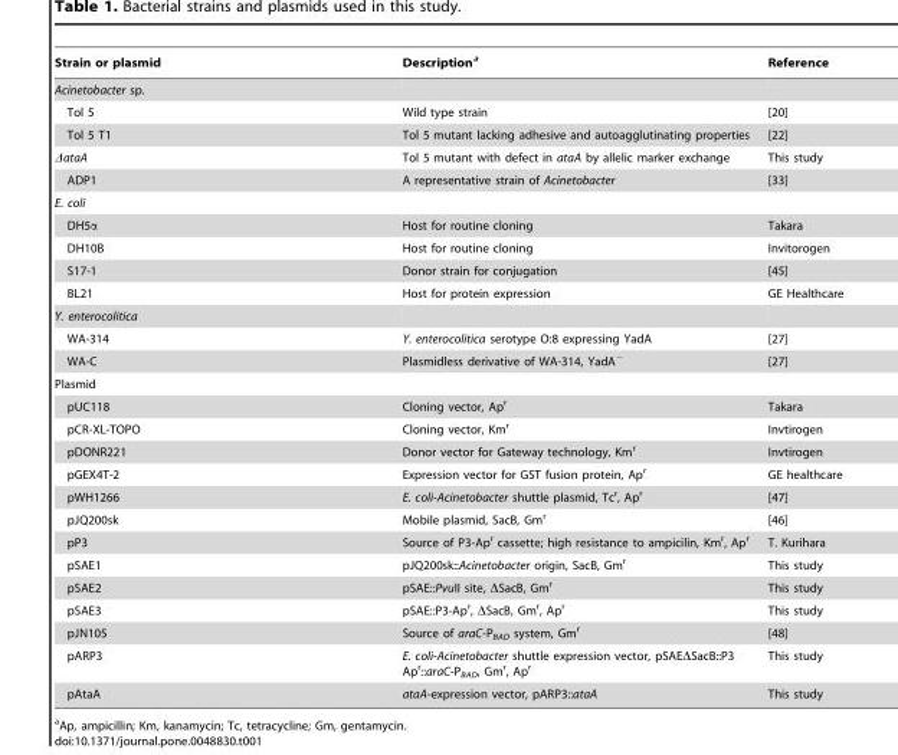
<table><thead><tr><td>Strain or plasmid</td><td>Description<sup>a</sup></td><td>Reference</td></tr></thead><tbody><tr><td colspan="3">Acinetobacter sp.</td></tr><tr><td>Tol 5</td><td>Wild type strain</td><td>[20]</td></tr><tr><td>Tol 5 T1</td><td>Tol 5 mutant lacking adhesive and autoagglutinating properties</td><td>[22]</td></tr><tr><td>ΔataA</td><td>Tol 5 mutant with defect in ataA by allelic marker exchange</td><td>This study</td></tr><tr><td>ADP1</td><td>A representative strain of Acinetobacter</td><td>[33]</td></tr><tr><td colspan="3">E. coli</td></tr><tr><td>DH5α</td><td>Host for routine cloning</td><td>Takara</td></tr><tr><td>DH10B</td><td>Host for routine cloning</td><td>Invitorogen</td></tr><tr><td>S17-1</td><td>Donor strain for conjugation</td><td>[45]</td></tr><tr><td>BL21</td><td>Host for protein expression</td><td>GE Healthcare</td></tr><tr><td colspan="3">Y. enterocolitica</td></tr><tr><td>WA-314</td><td>Y. enterocolitica serotype O:8 expressing YadA</td><td>[27]</td></tr><tr><td>WA-C</td><td>Plasmidless derivative of WA-314, YadA<sup>−</sup></td><td>[27]</td></tr><tr><td colspan="3">Plasmid</td></tr><tr><td>pUC118</td><td>Cloning vector, Ap<sup>r</sup></td><td>Takara</td></tr><tr><td>pCR-XL-TOPO</td><td>Cloning vector, Km<sup>r</sup></td><td>Invtirogen</td></tr><tr><td>pDONR221</td><td>Donor vector for Gateway technology, Km<sup>r</sup></td><td>Invtirogen</td></tr><tr><td>pGEX4T-2</td><td>Expression vector for GST fusion protein, Ap<sup>r</sup></td><td>GE healthcare</td></tr><tr><td>pWH1266</td><td>E. coli-Acinetobacter shuttle plasmid, Tc<sup>r</sup>, Ap<sup>r</sup></td><td>[47]</td></tr><tr><td>pJQ200sk</td><td>Mobile plasmid, SacB, Gm<sup>r</sup></td><td>[46]</td></tr><tr><td>pP3</td><td>Source of P3-Ap<sup>r</sup> cassette; high resistance to ampicilin, Km<sup>r</sup>, Ap<sup>r</sup></td><td>T. Kurihara</td></tr><tr><td>pSAE1</td><td>pJQ200sk::Acinetobacter origin, SacB, Gm<sup>r</sup></td><td>This study</td></tr><tr><td>pSAE2</td><td>pSAE::PvuII site, ΔSacB, Gm<sup>r</sup></td><td>This study</td></tr><tr><td>pSAE3</td><td>pSAE::P3-Ap<sup>r</sup>, ΔSacB, Gm<sup>r</sup>, Ap<sup>r</sup></td><td>This study</td></tr><tr><td>pJN105</td><td>Source of araC-P<sub>BAD</sub> system, Gm<sup>r</sup></td><td>[48]</td></tr><tr><td>pARP3</td><td>E. coli-Acinetobacter shuttle expression vector, pSAEΔSacB::P3 Ap<sup>r</sup>::araC-P<sub>BAD</sub>, Gm<sup>r</sup>, Ap<sup>r</sup></td><td>This study</td></tr><tr><td>pAtaA</td><td>ataA-expression vector, pARP3::ataA</td><td>This study</td></tr></tbody></table>